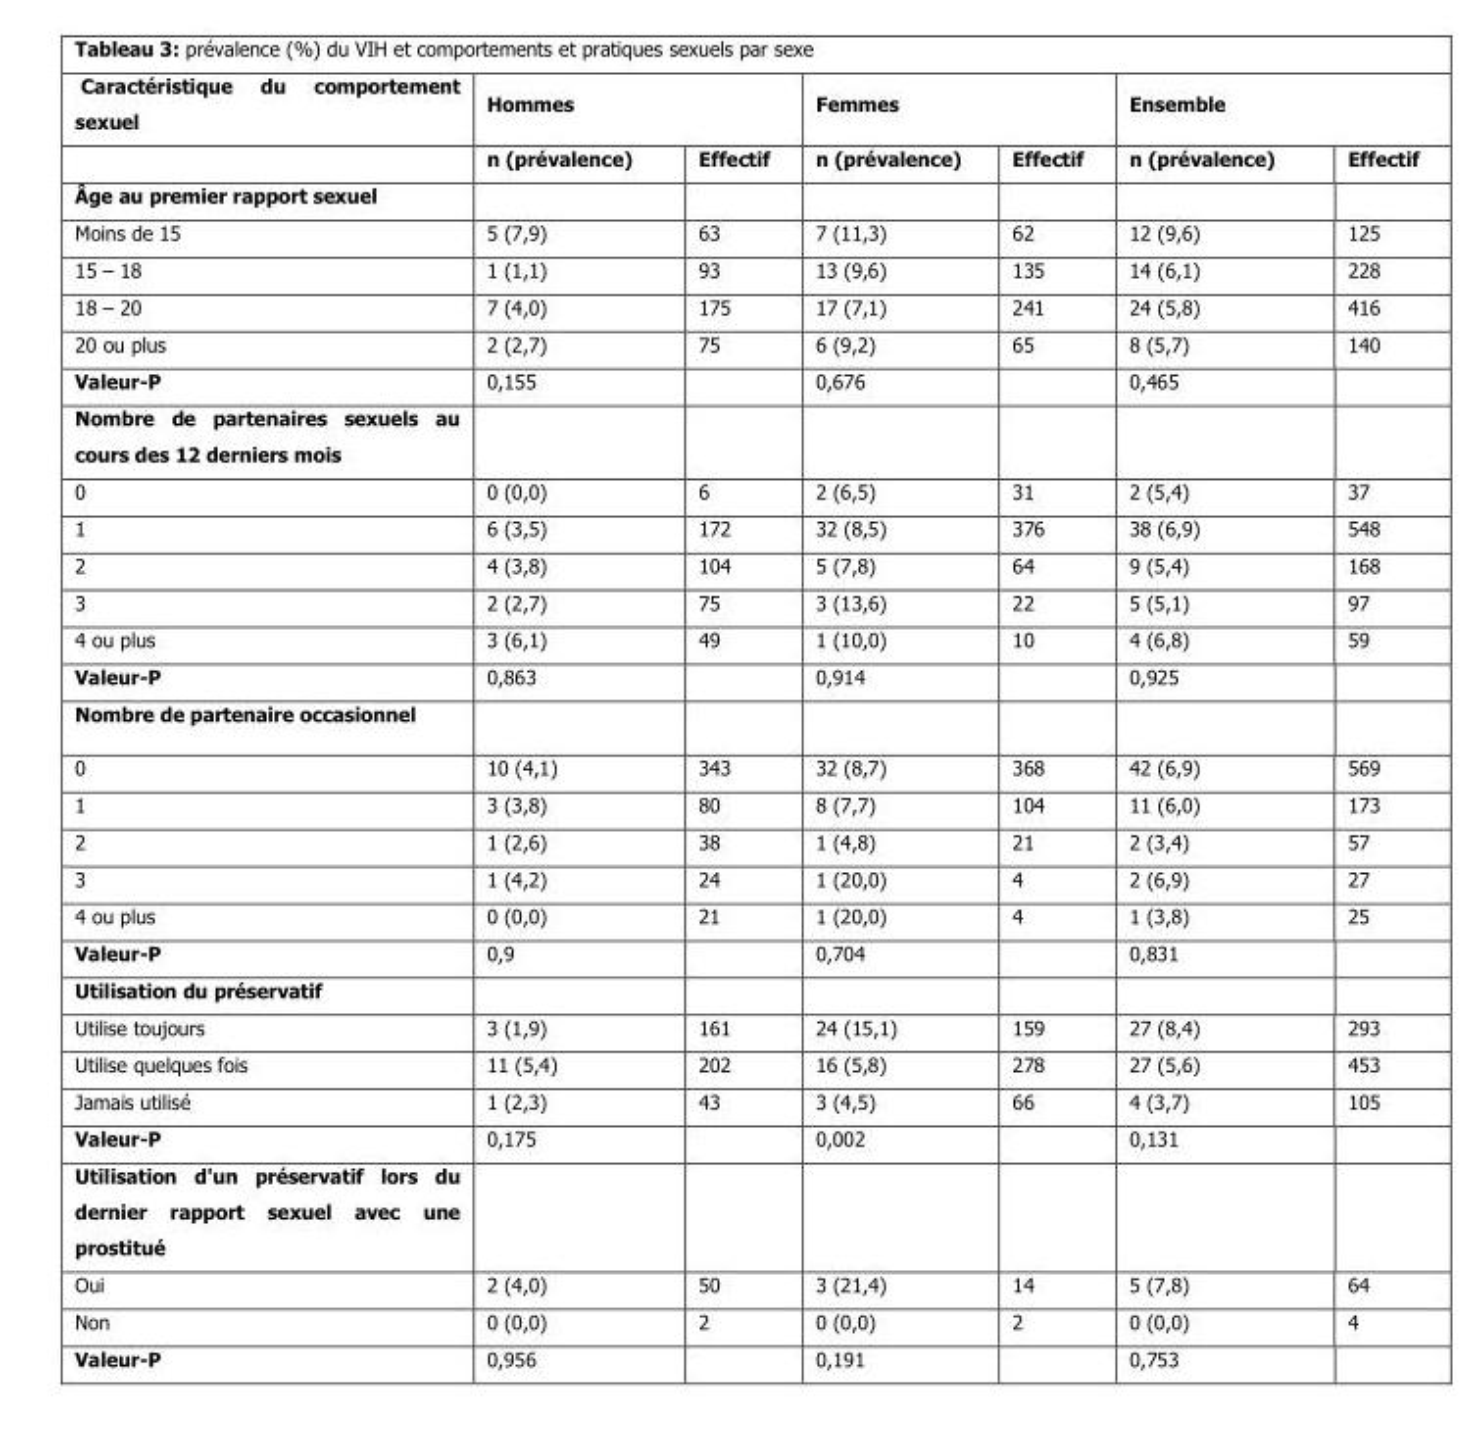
<table><thead><tr><td rowspan="2">Caractéristique du comportement sexuel</td><td colspan="2">Hommes</td><td colspan="2">Femmes</td><td colspan="2">Ensemble</td></tr><tr><td>n (prévalence)</td><td>Effectif</td><td>n (prévalence)</td><td>Effectif</td><td>n (prévalence)</td><td>Effectif</td></tr></thead><tbody><tr><td colspan="7">Âge au premier rapport sexuel</td></tr><tr><td>Moins de 15</td><td>5 (7,9)</td><td>63</td><td>7 (11,3)</td><td>62</td><td>12 (9,6)</td><td>125</td></tr><tr><td>15 – 18</td><td>1 (1,1)</td><td>93</td><td>13 (9,6)</td><td>135</td><td>14 (6,1)</td><td>228</td></tr><tr><td>18 – 20</td><td>7 (4,0)</td><td>175</td><td>17 (7,1)</td><td>241</td><td>24 (5,8)</td><td>416</td></tr><tr><td>20 ou plus</td><td>2 (2,7)</td><td>75</td><td>6 (9,2)</td><td>65</td><td>8 (5,7)</td><td>140</td></tr><tr><td>Valeur-P</td><td>0,155</td><td></td><td>0,676</td><td></td><td>0,465</td><td></td></tr><tr><td colspan="7">Nombre de partenaires sexuels au cours des 12 derniers mois</td></tr><tr><td>0</td><td>0 (0,0)</td><td>6</td><td>2 (6,5)</td><td>31</td><td>2 (5,4)</td><td>37</td></tr><tr><td>1</td><td>6 (3,5)</td><td>172</td><td>32 (8,5)</td><td>376</td><td>38 (6,9)</td><td>548</td></tr><tr><td>2</td><td>4 (3,8)</td><td>104</td><td>5 (7,8)</td><td>64</td><td>9 (5,4)</td><td>168</td></tr><tr><td>3</td><td>2 (2,7)</td><td>75</td><td>3 (13,6)</td><td>22</td><td>5 (5,1)</td><td>97</td></tr><tr><td>4 ou plus</td><td>3 (6,1)</td><td>49</td><td>1 (10,0)</td><td>10</td><td>4 (6,8)</td><td>59</td></tr><tr><td>Valeur-P</td><td>0,863</td><td></td><td>0,914</td><td></td><td>0,925</td><td></td></tr><tr><td colspan="7">Nombre de partenaire occasionnel</td></tr><tr><td>0</td><td>10 (4,1)</td><td>343</td><td>32 (8,7)</td><td>368</td><td>42 (6,9)</td><td>569</td></tr><tr><td>1</td><td>3 (3,8)</td><td>80</td><td>8 (7,7)</td><td>104</td><td>11 (6,0)</td><td>173</td></tr><tr><td>2</td><td>1 (2,6)</td><td>38</td><td>1 (4,8)</td><td>21</td><td>2 (3,4)</td><td>57</td></tr><tr><td>3</td><td>1 (4,2)</td><td>24</td><td>1 (20,0)</td><td>4</td><td>2 (6,9)</td><td>27</td></tr><tr><td>4 ou plus</td><td>0 (0,0)</td><td>21</td><td>1 (20,0)</td><td>4</td><td>1 (3,8)</td><td>25</td></tr><tr><td>Valeur-P</td><td>0,9</td><td></td><td>0,704</td><td></td><td>0,831</td><td></td></tr><tr><td colspan="7">Utilisation du préservatif</td></tr><tr><td>Utilise toujours</td><td>3 (1,9)</td><td>161</td><td>24 (15,1)</td><td>159</td><td>27 (8,4)</td><td>293</td></tr><tr><td>Utilise quelques fois</td><td>11 (5,4)</td><td>202</td><td>16 (5,8)</td><td>278</td><td>27 (5,6)</td><td>453</td></tr><tr><td>Jamais utilisé</td><td>1 (2,3)</td><td>43</td><td>3 (4,5)</td><td>66</td><td>4 (3,7)</td><td>105</td></tr><tr><td>Valeur-P</td><td>0,175</td><td></td><td>0,002</td><td></td><td>0,131</td><td></td></tr><tr><td colspan="7">Utilisation d&#x27;un préservatif lors du dernier rapport sexuel avec une prostitué</td></tr><tr><td>Oui</td><td>2 (4,0)</td><td>50</td><td>3 (21,4)</td><td>14</td><td>5 (7,8)</td><td>64</td></tr><tr><td>Non</td><td>0 (0,0)</td><td>2</td><td>0 (0,0)</td><td>2</td><td>0 (0,0)</td><td>4</td></tr><tr><td>Valeur-P</td><td>0,956</td><td></td><td>0,191</td><td></td><td>0,753</td><td></td></tr></tbody></table>